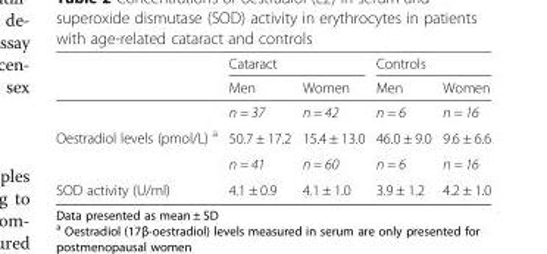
<table><thead><tr><td rowspan="2"></td><td colspan="2">Cataract</td><td colspan="2">Controls</td></tr><tr><td>Men</td><td>Women</td><td>Men</td><td>Women</td></tr></thead><tbody><tr><td></td><td>n = 37</td><td>n = 42</td><td>n = 6</td><td>n = 16</td></tr><tr><td rowspan="2">Oestradiol levels (pmol/L) <sup>a</sup></td><td>50.7 ± 17.2</td><td>15.4 ± 13.0</td><td>46.0 ± 9.0</td><td>9.6 ± 6.6</td></tr><tr><td>n = 41</td><td>n = 60</td><td>n = 6</td><td>n = 16</td></tr><tr><td>SOD activity (U/ml)</td><td>4.1 ± 0.9</td><td>4.1 ± 1.0</td><td>3.9 ± 1.2</td><td>4.2 ± 1.0</td></tr></tbody></table>